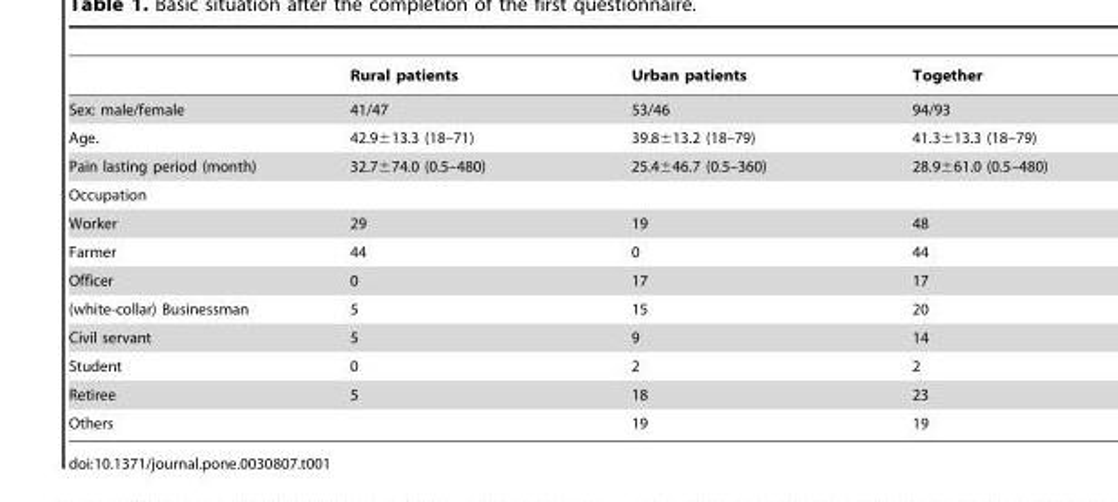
<table><thead><tr><td></td><td>Rural patients</td><td>Urban patients</td><td>Together</td></tr></thead><tbody><tr><td>Sex: male/female</td><td>41/47</td><td>53/46</td><td>94/93</td></tr><tr><td>Age.</td><td>42.9±13.3 (18–71)</td><td>39.8±13.2 (18–79)</td><td>41.3±13.3 (18–79)</td></tr><tr><td>Pain lasting period (month)</td><td>32.7±74.0 (0.5–480)</td><td>25.4±46.7 (0.5–360)</td><td>28.9±61.0 (0.5–480)</td></tr><tr><td colspan="4">Occupation</td></tr><tr><td>Worker</td><td>29</td><td>19</td><td>48</td></tr><tr><td>Farmer</td><td>44</td><td>0</td><td>44</td></tr><tr><td>Officer</td><td>0</td><td>17</td><td>17</td></tr><tr><td>(white-collar) Businessman</td><td>5</td><td>15</td><td>20</td></tr><tr><td>Civil servant</td><td>5</td><td>9</td><td>14</td></tr><tr><td>Student</td><td>0</td><td>2</td><td>2</td></tr><tr><td>Retiree</td><td>5</td><td>18</td><td>23</td></tr><tr><td>Others</td><td></td><td>19</td><td>19</td></tr></tbody></table>